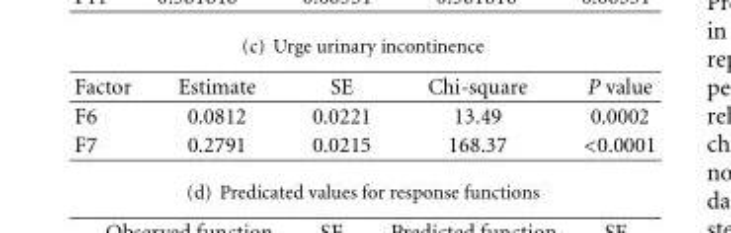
<table><thead><tr><td>Factor</td><td>Estimate</td><td>SE</td><td>Chi-square</td><td>P value</td></tr></thead><tbody><tr><td>F6</td><td>0.0812</td><td>0.0221</td><td>13.49</td><td>0.0002</td></tr><tr><td>F7</td><td>0.2791</td><td>0.0215</td><td>168.37</td><td>&lt;0.0001</td></tr></tbody></table>